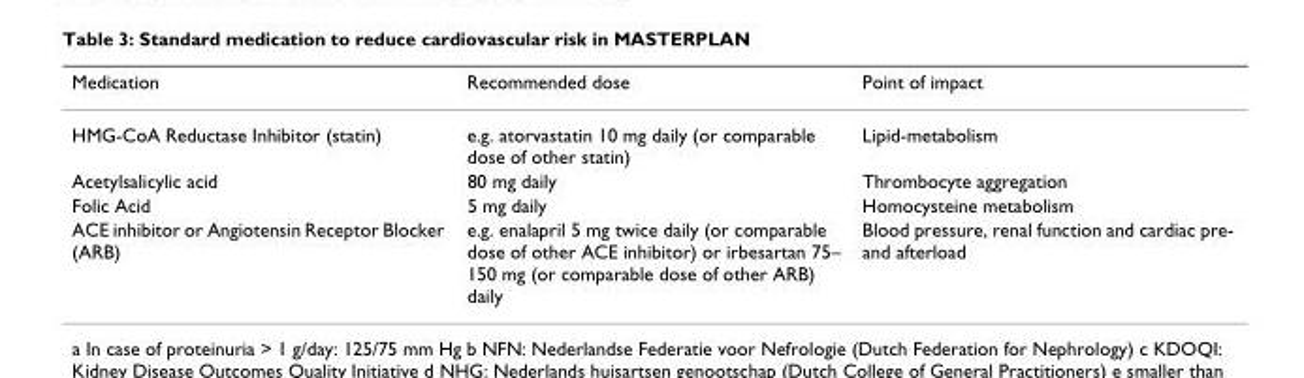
<table><thead><tr><td>Medication</td><td>Recommended dose</td><td>Point of impact</td></tr></thead><tbody><tr><td>HMG-CoA Reductase Inhibitor (statin)</td><td>e.g. atorvastatin 10 mg daily (or comparable dose of other statin)</td><td>Lipid-metabolism</td></tr><tr><td>Acetylsalicylic acid</td><td>80 mg daily</td><td>Thrombocyte aggregation</td></tr><tr><td>Folic Acid</td><td>5 mg daily</td><td>Homocysteine metabolism</td></tr><tr><td>ACE inhibitor or Angiotensin Receptor Blocker (ARB)</td><td>e.g. enalapril 5 mg twice daily (or comparable dose of other ACE inhibitor) or irbesartan 75– 150 mg (or comparable dose of other ARB) daily</td><td>Blood pressure, renal function and cardiac pre- and afterload</td></tr></tbody></table>